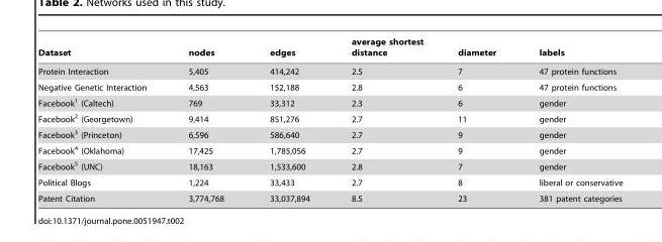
<table><thead><tr><td>Dataset</td><td>nodes</td><td>edges</td><td>average shortest distance</td><td>diameter</td><td>labels</td></tr></thead><tbody><tr><td>Protein Interaction</td><td>5,405</td><td>414,242</td><td>2.5</td><td>7</td><td>47 protein functions</td></tr><tr><td>Negative Genetic Interaction</td><td>4,563</td><td>152,188</td><td>2.8</td><td>6</td><td>47 protein functions</td></tr><tr><td>Facebook<sup>1</sup> (Caltech)</td><td>769</td><td>33,312</td><td>2.3</td><td>6</td><td>gender</td></tr><tr><td>Facebook<sup>2</sup> (Georgetown)</td><td>9,414</td><td>851,276</td><td>2.7</td><td>11</td><td>gender</td></tr><tr><td>Facebook<sup>3</sup> (Princeton)</td><td>6,596</td><td>586,640</td><td>2.7</td><td>9</td><td>gender</td></tr><tr><td>Facebook<sup>4</sup> (Oklahoma)</td><td>17,425</td><td>1,785,056</td><td>2.7</td><td>9</td><td>gender</td></tr><tr><td>Facebook<sup>5</sup> (UNC)</td><td>18,163</td><td>1,533,600</td><td>2.8</td><td>7</td><td>gender</td></tr><tr><td>Political Blogs</td><td>1,224</td><td>33,433</td><td>2.7</td><td>8</td><td>liberal or conservative</td></tr><tr><td>Patent Citation</td><td>3,774,768</td><td>33,037,894</td><td>8.5</td><td>23</td><td>381 patent categories</td></tr></tbody></table>